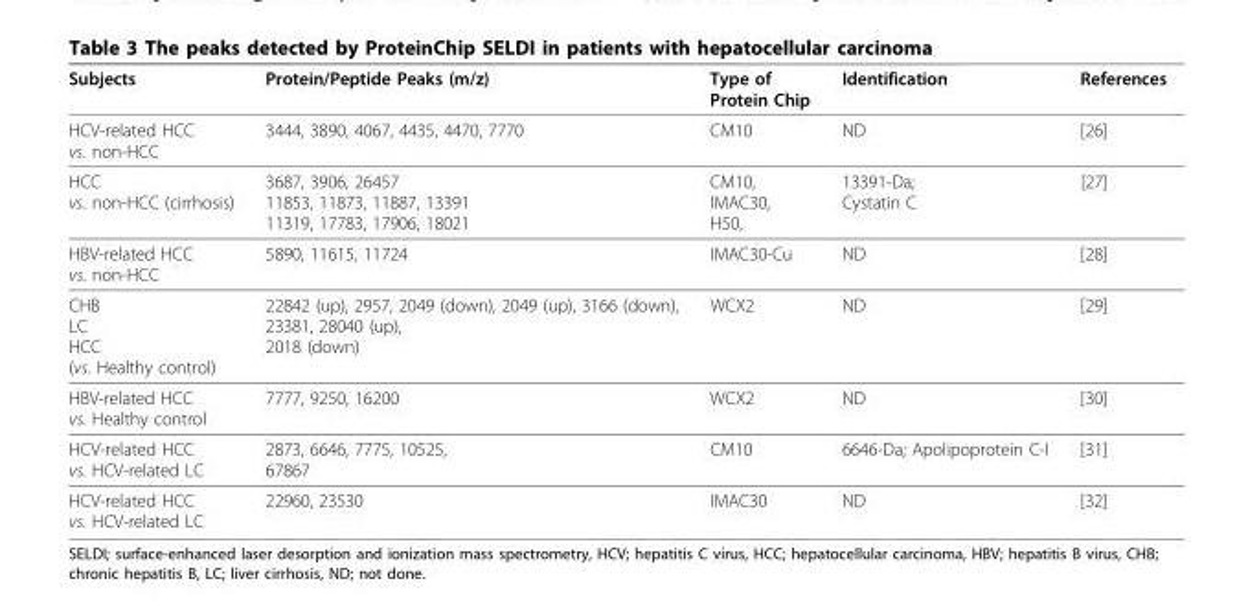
<table><thead><tr><td>Subjects</td><td>Protein/Peptide Peaks (m/z)</td><td>Type of Protein Chip</td><td>Identification</td><td>References</td></tr></thead><tbody><tr><td>HCV-related HCC vs. non-HCC</td><td>3444, 3890, 4067, 4435, 4470, 7770</td><td>CM10</td><td>ND</td><td>[26]</td></tr><tr><td>HCC vs. non-HCC (cirrhosis)</td><td>3687, 3906, 26457 11853, 11873, 11887, 13391 11319, 17783, 17906, 18021</td><td>CM10, IMAC30, H50,</td><td>13391-Da; Cystatin C</td><td>[27]</td></tr><tr><td>HBV-related HCC vs. non-HCC</td><td>5890, 11615, 11724</td><td>IMAC30-Cu</td><td>ND</td><td>[28]</td></tr><tr><td>CHB LC HCC (vs. Healthy control)</td><td>22842 (up), 2957, 2049 (down), 2049 (up), 3166 (down), 23381, 28040 (up), 2018 (down)</td><td>WCX2</td><td>ND</td><td>[29]</td></tr><tr><td>HBV-related HCC vs. Healthy control</td><td>7777, 9250, 16200</td><td>WCX2</td><td>ND</td><td>[30]</td></tr><tr><td>HCV-related HCC vs. HCV-related LC</td><td>2873, 6646, 7775, 10525, 67867</td><td>CM10</td><td>6646-Da; Apolipoprotein C-I</td><td>[31]</td></tr><tr><td>HCV-related HCC vs. HCV-related LC</td><td>22960, 23530</td><td>IMAC30</td><td>ND</td><td>[32]</td></tr></tbody></table>